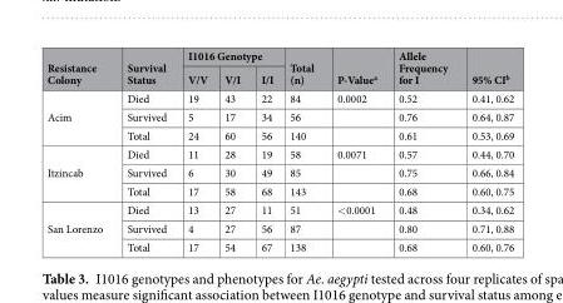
<table><thead><tr><td rowspan="2">Resistance Colony</td><td rowspan="2">Survival Status</td><td colspan="3">I1016 Genotype</td><td rowspan="2">Total (n)</td><td rowspan="2">P-Value<sup>a</sup></td><td rowspan="2">Allele Frequency for I</td><td rowspan="2">95% CI<sup>b</sup></td></tr><tr><td>V/V</td><td>V/I</td><td>I/I</td></tr></thead><tbody><tr><td rowspan="3">Acim</td><td>Died</td><td>19</td><td>43</td><td>22</td><td>84</td><td>0.0002</td><td>0.52</td><td>0.41, 0.62</td></tr><tr><td>Survived</td><td>5</td><td>17</td><td>34</td><td>56</td><td></td><td>0.76</td><td>0.64, 0.87</td></tr><tr><td>Total</td><td>24</td><td>60</td><td>56</td><td>140</td><td></td><td>0.61</td><td>0.53, 0.69</td></tr><tr><td rowspan="3">Itzincab</td><td>Died</td><td>11</td><td>28</td><td>19</td><td>58</td><td>0.0071</td><td>0.57</td><td>0.44, 0.70</td></tr><tr><td>Survived</td><td>6</td><td>30</td><td>49</td><td>85</td><td></td><td>0.75</td><td>0.66, 0.84</td></tr><tr><td>Total</td><td>17</td><td>58</td><td>68</td><td>143</td><td></td><td>0.68</td><td>0.60, 0.75</td></tr><tr><td rowspan="3">San Lorenzo</td><td>Died</td><td>13</td><td>27</td><td>11</td><td>51</td><td>&lt;0.0001</td><td>0.48</td><td>0.34, 0.62</td></tr><tr><td>Survived</td><td>4</td><td>27</td><td>56</td><td>87</td><td></td><td>0.80</td><td>0.71, 0.88</td></tr><tr><td>Total</td><td>17</td><td>54</td><td>67</td><td>138</td><td></td><td>0.68</td><td>0.60, 0.76</td></tr></tbody></table>